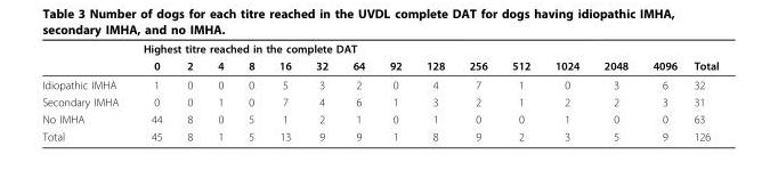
<table><thead><tr><td rowspan="2"></td><td colspan="14">Highest titre reached in the complete DAT</td><td rowspan="2">Total</td></tr><tr><td>0</td><td>2</td><td>4</td><td>8</td><td>16</td><td>32</td><td>64</td><td>92</td><td>128</td><td>256</td><td>512</td><td>1024</td><td>2048</td><td>4096</td></tr></thead><tbody><tr><td>Idiopathic IMHA</td><td>1</td><td>0</td><td>0</td><td>0</td><td>5</td><td>3</td><td>2</td><td>0</td><td>4</td><td>7</td><td>1</td><td>0</td><td>3</td><td>6</td><td>32</td></tr><tr><td>Secondary IMHA</td><td>0</td><td>0</td><td>1</td><td>0</td><td>7</td><td>4</td><td>6</td><td>1</td><td>3</td><td>2</td><td>1</td><td>2</td><td>2</td><td>3</td><td>31</td></tr><tr><td>No IMHA</td><td>44</td><td>8</td><td>0</td><td>5</td><td>1</td><td>2</td><td>1</td><td>0</td><td>1</td><td>0</td><td>0</td><td>1</td><td>0</td><td>0</td><td>63</td></tr><tr><td>Total</td><td>45</td><td>8</td><td>1</td><td>5</td><td>13</td><td>9</td><td>9</td><td>1</td><td>8</td><td>9</td><td>2</td><td>3</td><td>5</td><td>9</td><td>126</td></tr></tbody></table>